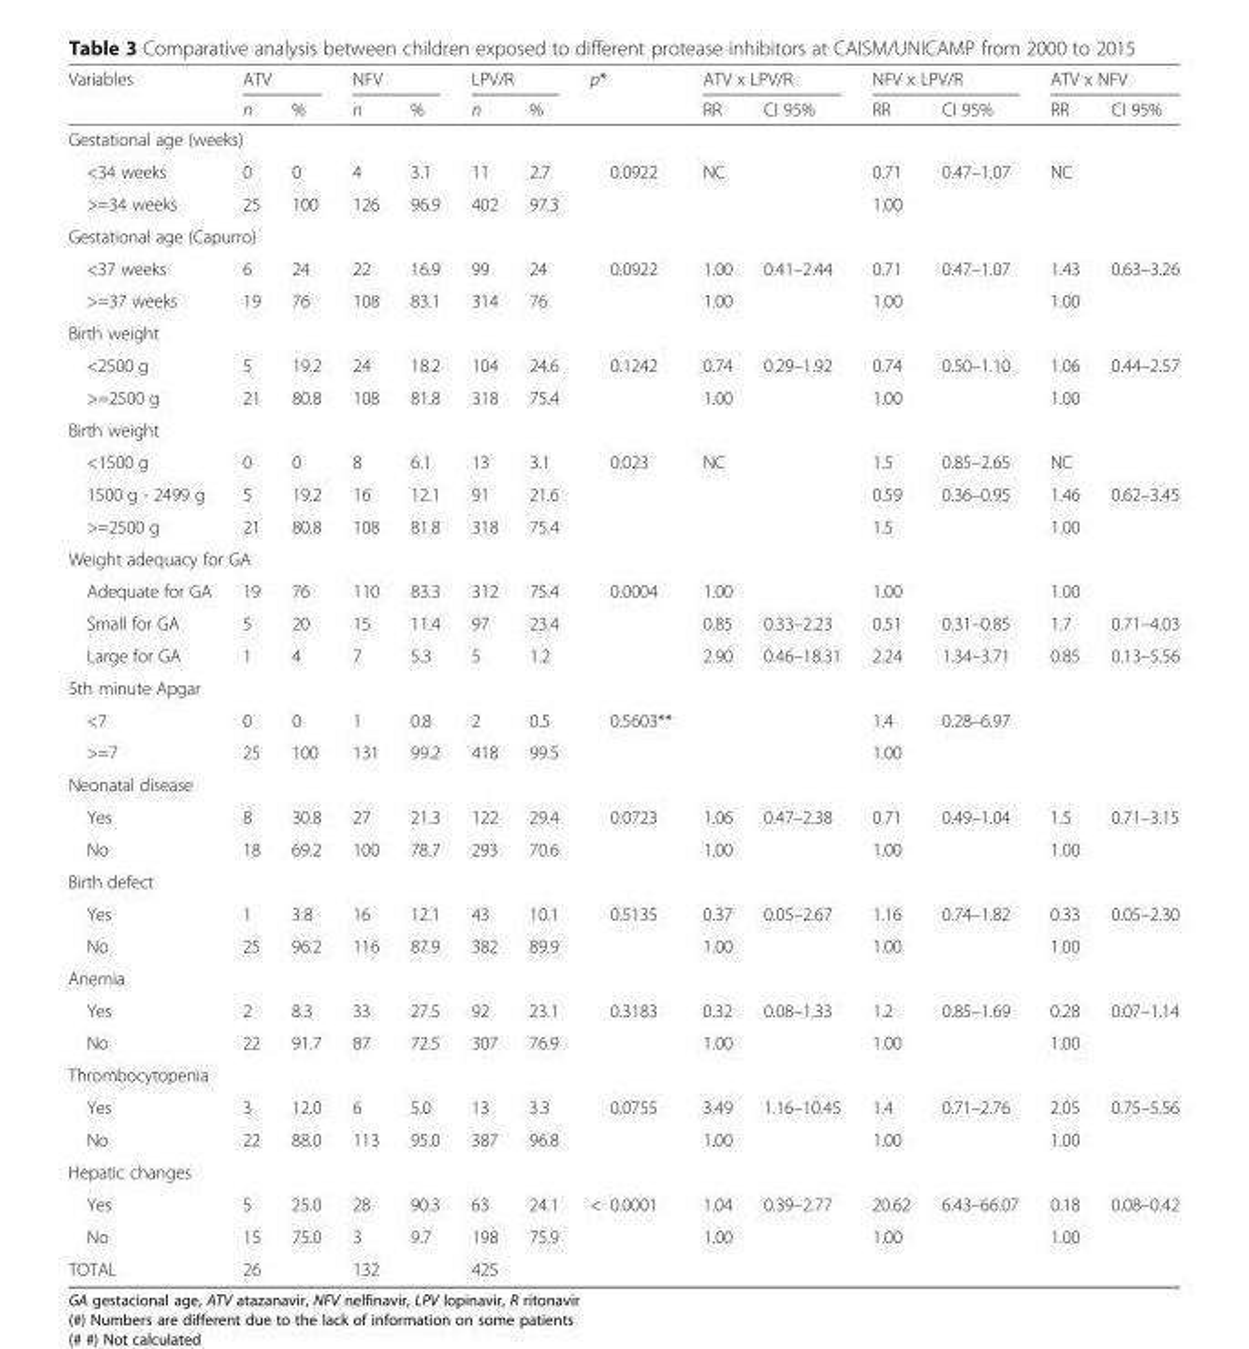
<table><thead><tr><td rowspan="2">Variables</td><td colspan="2">ATV</td><td colspan="2">NFV</td><td colspan="2">LPV/R</td><td rowspan="2">p*</td><td colspan="2">ATV x LPV/R</td><td colspan="2">NFV x LPV/R</td><td colspan="2">ATV x NFV</td></tr><tr><td>n</td><td>%</td><td>n</td><td>%</td><td>n</td><td>%</td><td>RR</td><td>CI 95%</td><td>RR</td><td>CI 95%</td><td>RR</td><td>CI 95%</td></tr></thead><tbody><tr><td colspan="14">Gestational age (weeks)</td></tr><tr><td>&lt;34 weeks</td><td>0</td><td>0</td><td>4</td><td>3.1</td><td>11</td><td>2.7</td><td rowspan="2">0.0922</td><td>NC</td><td></td><td>0.71</td><td>0.47–1.07</td><td>NC</td><td></td></tr><tr><td>&gt;=34 weeks</td><td>25</td><td>100</td><td>126</td><td>96.9</td><td>402</td><td>97.3</td><td></td><td></td><td>1.00</td><td></td><td></td><td></td></tr><tr><td colspan="14">Gestational age (Capurro)</td></tr><tr><td>&lt;37 weeks</td><td>6</td><td>24</td><td>22</td><td>16.9</td><td>99</td><td>24</td><td rowspan="2">0.0922</td><td>1.00</td><td>0.41–2.44</td><td>0.71</td><td>0.47–1.07</td><td>1.43</td><td>0.63–3.26</td></tr><tr><td>&gt;=37 weeks</td><td>19</td><td>76</td><td>108</td><td>83.1</td><td>314</td><td>76</td><td>1.00</td><td></td><td>1.00</td><td></td><td>1.00</td><td></td></tr><tr><td colspan="14">Birth weight</td></tr><tr><td>&lt;2500 g</td><td>5</td><td>19.2</td><td>24</td><td>18.2</td><td>104</td><td>24.6</td><td rowspan="2">0.1242</td><td>0.74</td><td>0.29–1.92</td><td>0.74</td><td>0.50–1.10</td><td>1.06</td><td>0.44–2.57</td></tr><tr><td>&gt;=2500 g</td><td>21</td><td>80.8</td><td>108</td><td>81.8</td><td>318</td><td>75.4</td><td>1.00</td><td></td><td>1.00</td><td></td><td>1.00</td><td></td></tr><tr><td colspan="14">Birth weight</td></tr><tr><td>&lt;1500 g</td><td>0</td><td>0</td><td>8</td><td>6.1</td><td>13</td><td>3.1</td><td rowspan="3">0.023</td><td>NC</td><td></td><td>1.5</td><td>0.85–2.65</td><td>NC</td><td></td></tr><tr><td>1500 g - 2499 g</td><td>5</td><td>19.2</td><td>16</td><td>12.1</td><td>91</td><td>21.6</td><td></td><td></td><td>0.59</td><td>0.36–0.95</td><td>1.46</td><td>0.62–3.45</td></tr><tr><td>&gt;=2500 g</td><td>21</td><td>80.8</td><td>108</td><td>81.8</td><td>318</td><td>75.4</td><td></td><td></td><td>1.5</td><td></td><td>1.00</td><td></td></tr><tr><td colspan="14">Weight adequacy for GA</td></tr><tr><td>Adequate for GA</td><td>19</td><td>76</td><td>110</td><td>83.3</td><td>312</td><td>75.4</td><td rowspan="3">0.0004</td><td>1.00</td><td></td><td>1.00</td><td></td><td>1.00</td><td></td></tr><tr><td>Small for GA</td><td>5</td><td>20</td><td>15</td><td>11.4</td><td>97</td><td>23.4</td><td>0.85</td><td>0.33–2.23</td><td>0.51</td><td>0.31–0.85</td><td>1.7</td><td>0.71–4.03</td></tr><tr><td>Large for GA</td><td>1</td><td>4</td><td>7</td><td>5.3</td><td>5</td><td>1.2</td><td>2.90</td><td>0.46–18.31</td><td>2.24</td><td>1.34–3.71</td><td>0.85</td><td>0.13–5.56</td></tr><tr><td colspan="14">5th minute Apgar</td></tr><tr><td>&lt;7</td><td>0</td><td>0</td><td>1</td><td>0.8</td><td>2</td><td>0.5</td><td rowspan="2">0.5603**</td><td></td><td></td><td>1.4</td><td>0.28–6.97</td><td></td><td></td></tr><tr><td>&gt;=7</td><td>25</td><td>100</td><td>131</td><td>99.2</td><td>418</td><td>99.5</td><td></td><td></td><td>1.00</td><td></td><td></td><td></td></tr><tr><td colspan="14">Neonatal disease</td></tr><tr><td>Yes</td><td>8</td><td>30.8</td><td>27</td><td>21.3</td><td>122</td><td>29.4</td><td rowspan="2">0.0723</td><td>1.06</td><td>0.47–2.38</td><td>0.71</td><td>0.49–1.04</td><td>1.5</td><td>0.71–3.15</td></tr><tr><td>No</td><td>18</td><td>69.2</td><td>100</td><td>78.7</td><td>293</td><td>70.6</td><td>1.00</td><td></td><td>1.00</td><td></td><td>1.00</td><td></td></tr><tr><td colspan="14">Birth defect</td></tr><tr><td>Yes</td><td>1</td><td>3.8</td><td>16</td><td>12.1</td><td>43</td><td>10.1</td><td rowspan="2">0.5135</td><td>0.37</td><td>0.05–2.67</td><td>1.16</td><td>0.74–1.82</td><td>0.33</td><td>0.05–2.30</td></tr><tr><td>No</td><td>25</td><td>96.2</td><td>116</td><td>87.9</td><td>382</td><td>89.9</td><td>1.00</td><td></td><td>1.00</td><td></td><td>1.00</td><td></td></tr><tr><td colspan="14">Anemia</td></tr><tr><td>Yes</td><td>2</td><td>8.3</td><td>33</td><td>27.5</td><td>92</td><td>23.1</td><td rowspan="2">0.3183</td><td>0.32</td><td>0.08–1.33</td><td>1.2</td><td>0.85–1.69</td><td>0.28</td><td>0.07–1.14</td></tr><tr><td>No</td><td>22</td><td>91.7</td><td>87</td><td>72.5</td><td>307</td><td>76.9</td><td>1.00</td><td></td><td>1.00</td><td></td><td>1.00</td><td></td></tr><tr><td colspan="14">Thrombocytopenia</td></tr><tr><td>Yes</td><td>3</td><td>12.0</td><td>6</td><td>5.0</td><td>13</td><td>3.3</td><td rowspan="2">0.0755</td><td>3.49</td><td>1.16–10.45</td><td>1.4</td><td>0.71–2.76</td><td>2.05</td><td>0.75–5.56</td></tr><tr><td>No</td><td>22</td><td>88.0</td><td>113</td><td>95.0</td><td>387</td><td>96.8</td><td>1.00</td><td></td><td>1.00</td><td></td><td>1.00</td><td></td></tr><tr><td colspan="14">Hepatic changes</td></tr><tr><td>Yes</td><td>5</td><td>25.0</td><td>28</td><td>90.3</td><td>63</td><td>24.1</td><td rowspan="2">&lt; 0.0001</td><td>1.04</td><td>0.39–2.77</td><td>20.62</td><td>6.43–66.07</td><td>0.18</td><td>0.08–0.42</td></tr><tr><td>No</td><td>15</td><td>75.0</td><td>3</td><td>9.7</td><td>198</td><td>75.9</td><td>1.00</td><td></td><td>1.00</td><td></td><td>1.00</td><td></td></tr><tr><td>TOTAL</td><td>26</td><td></td><td>132</td><td></td><td>425</td><td></td><td></td><td></td><td></td><td></td><td></td><td></td><td></td></tr></tbody></table>